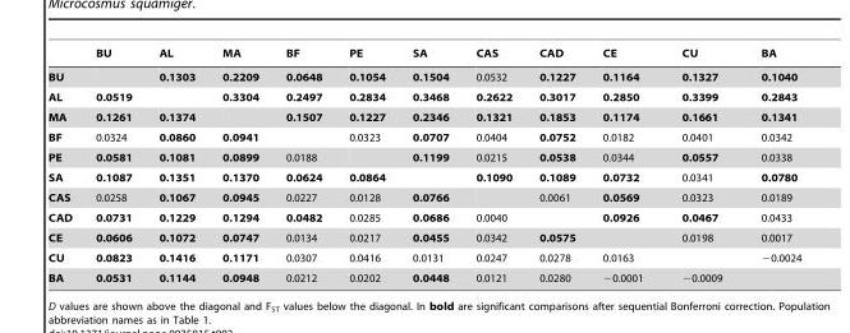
<table><thead><tr><td></td><td>BU</td><td>AL</td><td>MA</td><td>BF</td><td>PE</td><td>SA</td><td>CAS</td><td>CAD</td><td>CE</td><td>CU</td><td>BA</td></tr></thead><tbody><tr><td>BU</td><td></td><td>0.1303</td><td>0.2209</td><td>0.0648</td><td>0.1054</td><td>0.1504</td><td>0.0532</td><td>0.1227</td><td>0.1164</td><td>0.1327</td><td>0.1040</td></tr><tr><td>AL</td><td>0.0519</td><td></td><td>0.3304</td><td>0.2497</td><td>0.2834</td><td>0.3468</td><td>0.2622</td><td>0.3017</td><td>0.2850</td><td>0.3399</td><td>0.2843</td></tr><tr><td>MA</td><td>0.1261</td><td>0.1374</td><td></td><td>0.1507</td><td>0.1227</td><td>0.2346</td><td>0.1321</td><td>0.1853</td><td>0.1174</td><td>0.1661</td><td>0.1341</td></tr><tr><td>BF</td><td>0.0324</td><td>0.0860</td><td>0.0941</td><td></td><td>0.0323</td><td>0.0707</td><td>0.0404</td><td>0.0752</td><td>0.0182</td><td>0.0401</td><td>0.0342</td></tr><tr><td>PE</td><td>0.0581</td><td>0.1081</td><td>0.0899</td><td>0.0188</td><td></td><td>0.1199</td><td>0.0215</td><td>0.0538</td><td>0.0344</td><td>0.0557</td><td>0.0338</td></tr><tr><td>SA</td><td>0.1087</td><td>0.1351</td><td>0.1370</td><td>0.0624</td><td>0.0864</td><td></td><td>0.1090</td><td>0.1089</td><td>0.0732</td><td>0.0341</td><td>0.0780</td></tr><tr><td>CAS</td><td>0.0258</td><td>0.1067</td><td>0.0945</td><td>0.0227</td><td>0.0128</td><td>0.0766</td><td></td><td>0.0061</td><td>0.0569</td><td>0.0323</td><td>0.0189</td></tr><tr><td>CAD</td><td>0.0731</td><td>0.1229</td><td>0.1294</td><td>0.0482</td><td>0.0285</td><td>0.0686</td><td>0.0040</td><td></td><td>0.0926</td><td>0.0467</td><td>0.0433</td></tr><tr><td>CE</td><td>0.0606</td><td>0.1072</td><td>0.0747</td><td>0.0134</td><td>0.0217</td><td>0.0455</td><td>0.0342</td><td>0.0575</td><td></td><td>0.0198</td><td>0.0017</td></tr><tr><td>CU</td><td>0.0823</td><td>0.1416</td><td>0.1171</td><td>0.0307</td><td>0.0416</td><td>0.0131</td><td>0.0247</td><td>0.0278</td><td>0.0163</td><td></td><td>−0.0024</td></tr><tr><td>BA</td><td>0.0531</td><td>0.1144</td><td>0.0948</td><td>0.0212</td><td>0.0202</td><td>0.0448</td><td>0.0121</td><td>0.0280</td><td>−0.0001</td><td>−0.0009</td><td></td></tr></tbody></table>